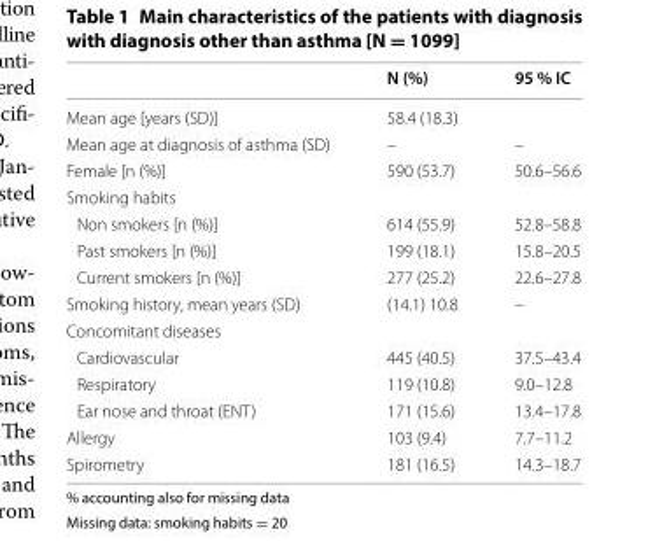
<table><thead><tr><td></td><td>N (%)</td><td>95 % IC</td></tr></thead><tbody><tr><td>Mean age [years (SD)]</td><td>58.4 (18.3)</td><td></td></tr><tr><td>Mean age at diagnosis of asthma (SD)</td><td>–</td><td>–</td></tr><tr><td>Female [n (%)]</td><td>590 (53.7)</td><td>50.6–56.6</td></tr><tr><td colspan="3">Smoking habits</td></tr><tr><td>Non smokers [n (%)]</td><td>614 (55.9)</td><td>52.8–58.8</td></tr><tr><td>Past smokers [n (%)]</td><td>199 (18.1)</td><td>15.8–20.5</td></tr><tr><td>Current smokers [n (%)]</td><td>277 (25.2)</td><td>22.6–27.8</td></tr><tr><td>Smoking history, mean years (SD)</td><td>(14.1) 10.8</td><td>–</td></tr><tr><td colspan="3">Concomitant diseases</td></tr><tr><td>Cardiovascular</td><td>445 (40.5)</td><td>37.5–43.4</td></tr><tr><td>Respiratory</td><td>119 (10.8)</td><td>9.0–12.8</td></tr><tr><td>Ear nose and throat (ENT)</td><td>171 (15.6)</td><td>13.4–17.8</td></tr><tr><td>Allergy</td><td>103 (9.4)</td><td>7.7–11.2</td></tr><tr><td>Spirometry</td><td>181 (16.5)</td><td>14.3–18.7</td></tr></tbody></table>